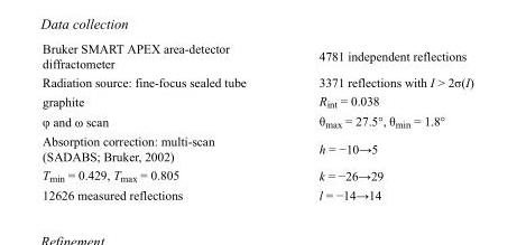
<table><tbody><tr><td>Bruker SMART APEX area-detector diffractometer</td><td>4781 independent reflections</td></tr><tr><td>Radiation source: fine-focus sealed tube</td><td>3371 reflections with I &gt; 2σ(I)</td></tr><tr><td>graphite</td><td>R<sub>int</sub> = 0.038</td></tr><tr><td>φ and ω scan</td><td>θ<sub>max</sub> = 27.5°, θ<sub>min</sub> = 1.8°</td></tr><tr><td>Absorption correction: multi-scan (SADABS; Bruker, 2002)</td><td>h = −10→5</td></tr><tr><td>T<sub>min</sub> = 0.429, T<sub>max</sub> = 0.805</td><td>k = −26→29</td></tr><tr><td>12626 measured reflections</td><td>l = −14→14</td></tr></tbody></table>